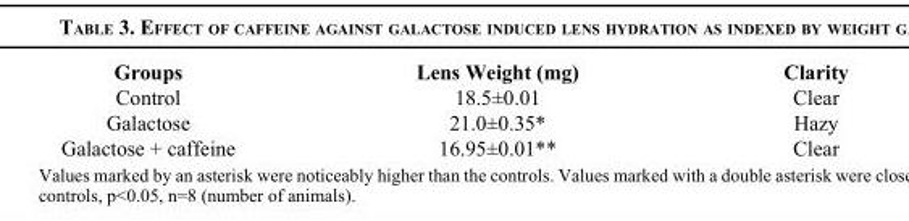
<table><thead><tr><td>Groups</td><td>Lens Weight (mg)</td><td>Clarity</td></tr></thead><tbody><tr><td>Control</td><td>18.5±0.01</td><td>Clear</td></tr><tr><td>Galactose</td><td>21.0±0.35*</td><td>Hazy</td></tr><tr><td>Galactose + caffeine</td><td>16.95±0.01**</td><td>Clear</td></tr></tbody></table>